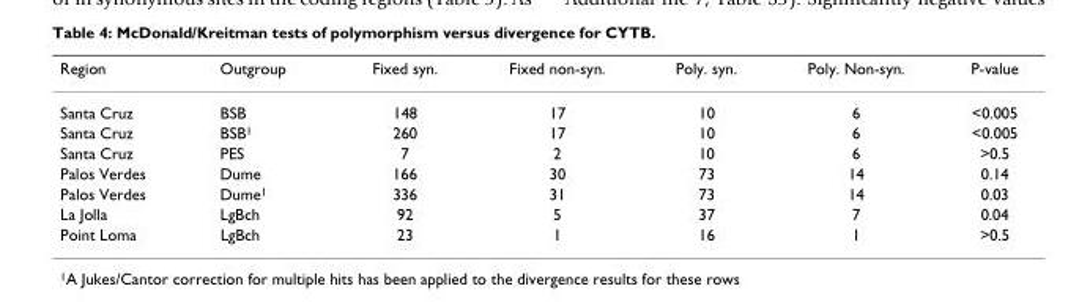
<table><thead><tr><td>Region</td><td>Outgroup</td><td>Fixed syn.</td><td>Fixed non-syn.</td><td>Poly. syn.</td><td>Poly. Non-syn.</td><td>P-value</td></tr></thead><tbody><tr><td>Santa Cruz</td><td>BSB</td><td>148</td><td>17</td><td>10</td><td>6</td><td>&lt;0.005</td></tr><tr><td>Santa Cruz</td><td>BSB<sup>1</sup></td><td>260</td><td>17</td><td>10</td><td>6</td><td>&lt;0.005</td></tr><tr><td>Santa Cruz</td><td>PES</td><td>7</td><td>2</td><td>10</td><td>6</td><td>&gt;0.5</td></tr><tr><td>Palos Verdes</td><td>Dume</td><td>166</td><td>30</td><td>73</td><td>14</td><td>0.14</td></tr><tr><td>Palos Verdes</td><td>Dume<sup>1</sup></td><td>336</td><td>31</td><td>73</td><td>14</td><td>0.03</td></tr><tr><td>La Jolla</td><td>LgBch</td><td>92</td><td>5</td><td>37</td><td>7</td><td>0.04</td></tr><tr><td>Point Loma</td><td>LgBch</td><td>23</td><td>1</td><td>16</td><td>1</td><td>&gt;0.5</td></tr></tbody></table>